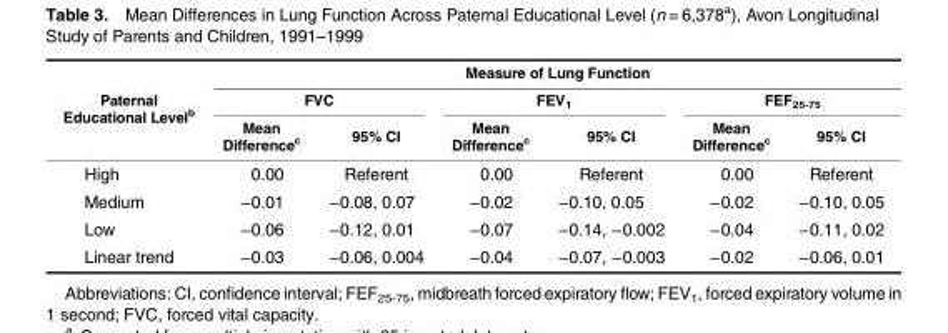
<table><thead><tr><td rowspan="3">Paternal Educational Level<sup>b</sup></td><td colspan="6">Measure of Lung Function</td></tr><tr><td colspan="2">FVC</td><td colspan="2">FEV<sub>1</sub></td><td colspan="2">FEF<sub>25-75</sub></td></tr><tr><td>Mean Difference<sup>c</sup></td><td>95% CI</td><td>Mean Difference<sup>c</sup></td><td>95% CI</td><td>Mean Difference<sup>c</sup></td><td>95% CI</td></tr></thead><tbody><tr><td>High</td><td>0.00</td><td>Referent</td><td>0.00</td><td>Referent</td><td>0.00</td><td>Referent</td></tr><tr><td>Medium</td><td>−0.01</td><td>−0.08, 0.07</td><td>−0.02</td><td>−0.10, 0.05</td><td>−0.02</td><td>−0.10, 0.05</td></tr><tr><td>Low</td><td>−0.06</td><td>−0.12, 0.01</td><td>−0.07</td><td>−0.14, −0.002</td><td>−0.04</td><td>−0.11, 0.02</td></tr><tr><td>Linear trend</td><td>−0.03</td><td>−0.06, 0.004</td><td>−0.04</td><td>−0.07, −0.003</td><td>−0.02</td><td>−0.06, 0.01</td></tr></tbody></table>